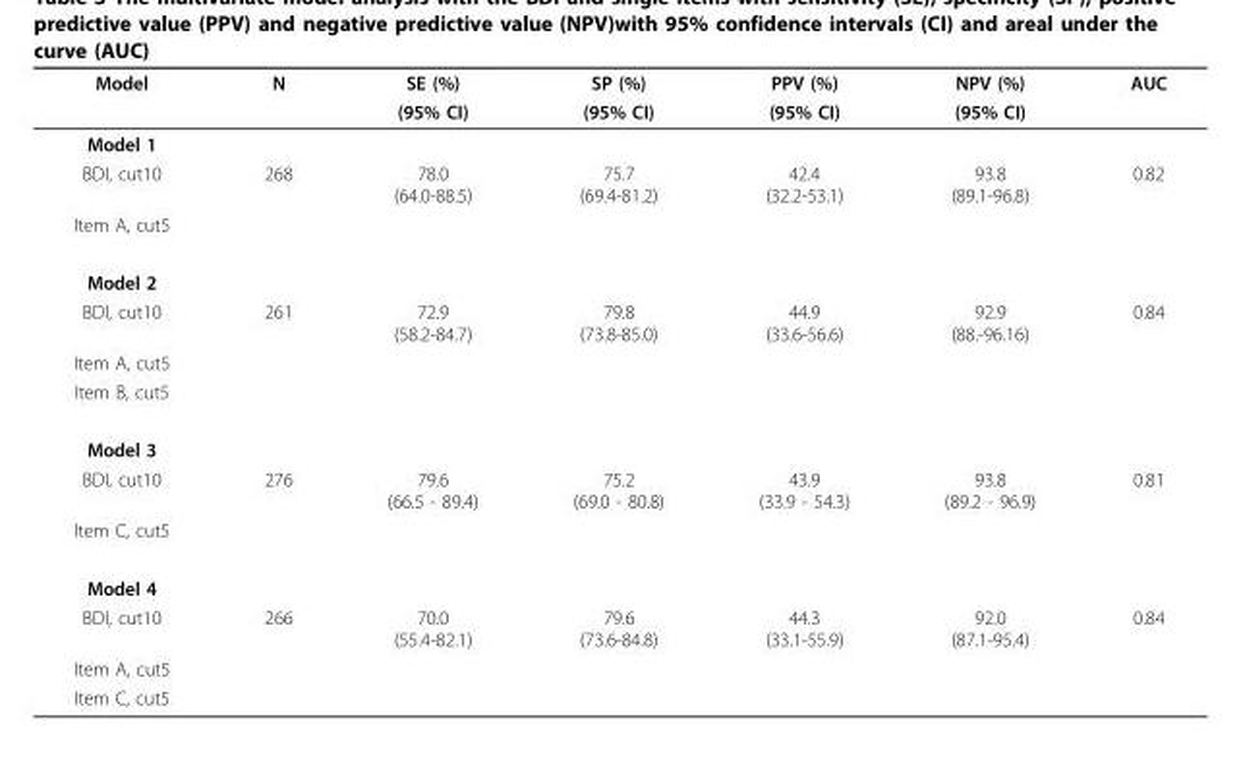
<table><thead><tr><td rowspan="2">Model</td><td rowspan="2">N</td><td rowspan="2">SE (%) (95% CI)</td><td rowspan="2">SP (%) (95% CI)</td><td rowspan="2">PPV (%) (95% CI)</td><td rowspan="2">NPV (%) (95% CI)</td><td rowspan="2">AUC</td></tr><tr></tr></thead><tbody><tr><td colspan="7">Model 1</td></tr><tr><td>BDI, cut10</td><td>268</td><td>78.0 (64.0-88.5)</td><td>75.7 (69.4-81.2)</td><td>42.4 (32.2-53.1)</td><td>93.8 (89.1-96.8)</td><td>0.82</td></tr><tr><td colspan="7">Item A, cut5</td></tr><tr><td colspan="7">Model 2</td></tr><tr><td>BDI, cut10</td><td>261</td><td>72.9 (58.2-84.7)</td><td>79.8 (73.8-85.0)</td><td>44.9 (33.6-56.6)</td><td>92.9 (88.-96.16)</td><td>0.84</td></tr><tr><td colspan="7">Item A, cut5</td></tr><tr><td colspan="7">Item B, cut5</td></tr><tr><td colspan="7">Model 3</td></tr><tr><td>BDI, cut10</td><td>276</td><td>79.6 (66.5 - 89.4)</td><td>75.2 (69.0 - 80.8)</td><td>43.9 (33.9 - 54.3)</td><td>93.8 (89.2 - 96.9)</td><td>0.81</td></tr><tr><td colspan="7">Item C, cut5</td></tr><tr><td colspan="7">Model 4</td></tr><tr><td>BDI, cut10</td><td>266</td><td>70.0 (55.4-82.1)</td><td>79.6 (73.6-84.8)</td><td>44.3 (33.1-55.9)</td><td>92.0 (87.1-95.4)</td><td>0.84</td></tr><tr><td colspan="7">Item A, cut5</td></tr><tr><td>Item C, cut5</td><td></td><td></td><td></td><td></td><td></td><td></td></tr></tbody></table>